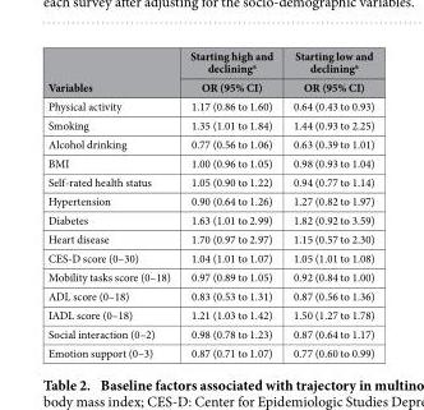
<table><thead><tr><td rowspan="2">Variables</td><td rowspan="2">Starting high and declining<sup>a</sup> OR (95% CI)</td><td rowspan="2">Starting low and declining<sup>a</sup> OR (95% CI)</td></tr><tr></tr></thead><tbody><tr><td>Physical activity</td><td>1.17 (0.86 to 1.60)</td><td>0.64 (0.43 to 0.93)</td></tr><tr><td>Smoking</td><td>1.35 (1.01 to 1.84)</td><td>1.44 (0.93 to 2.25)</td></tr><tr><td>Alcohol drinking</td><td>0.77 (0.56 to 1.06)</td><td>0.63 (0.39 to 1.01)</td></tr><tr><td>BMI</td><td>1.00 (0.96 to 1.05)</td><td>0.98 (0.93 to 1.04)</td></tr><tr><td>Self-rated health status</td><td>1.05 (0.90 to 1.22)</td><td>0.94 (0.77 to 1.14)</td></tr><tr><td>Hypertension</td><td>0.90 (0.64 to 1.26)</td><td>1.27 (0.82 to 1.97)</td></tr><tr><td>Diabetes</td><td>1.63 (1.01 to 2.99)</td><td>1.82 (0.92 to 3.59)</td></tr><tr><td>Heart disease</td><td>1.70 (0.97 to 2.97)</td><td>1.15 (0.57 to 2.30)</td></tr><tr><td>CES-D score (0–30)</td><td>1.04 (1.01 to 1.07)</td><td>1.05 (1.01 to 1.08)</td></tr><tr><td>Mobility tasks score (0–18)</td><td>0.97 (0.89 to 1.05)</td><td>0.92 (0.84 to 1.00)</td></tr><tr><td>ADL score (0–18)</td><td>0.83 (0.53 to 1.31)</td><td>0.87 (0.56 to 1.36)</td></tr><tr><td>IADL score (0–18)</td><td>1.21 (1.03 to 1.42)</td><td>1.50 (1.27 to 1.78)</td></tr><tr><td>Social interaction (0–2)</td><td>0.98 (0.78 to 1.23)</td><td>0.87 (0.64 to 1.17)</td></tr><tr><td>Emotion support (0–3)</td><td>0.87 (0.71 to 1.07)</td><td>0.77 (0.60 to 0.99)</td></tr></tbody></table>